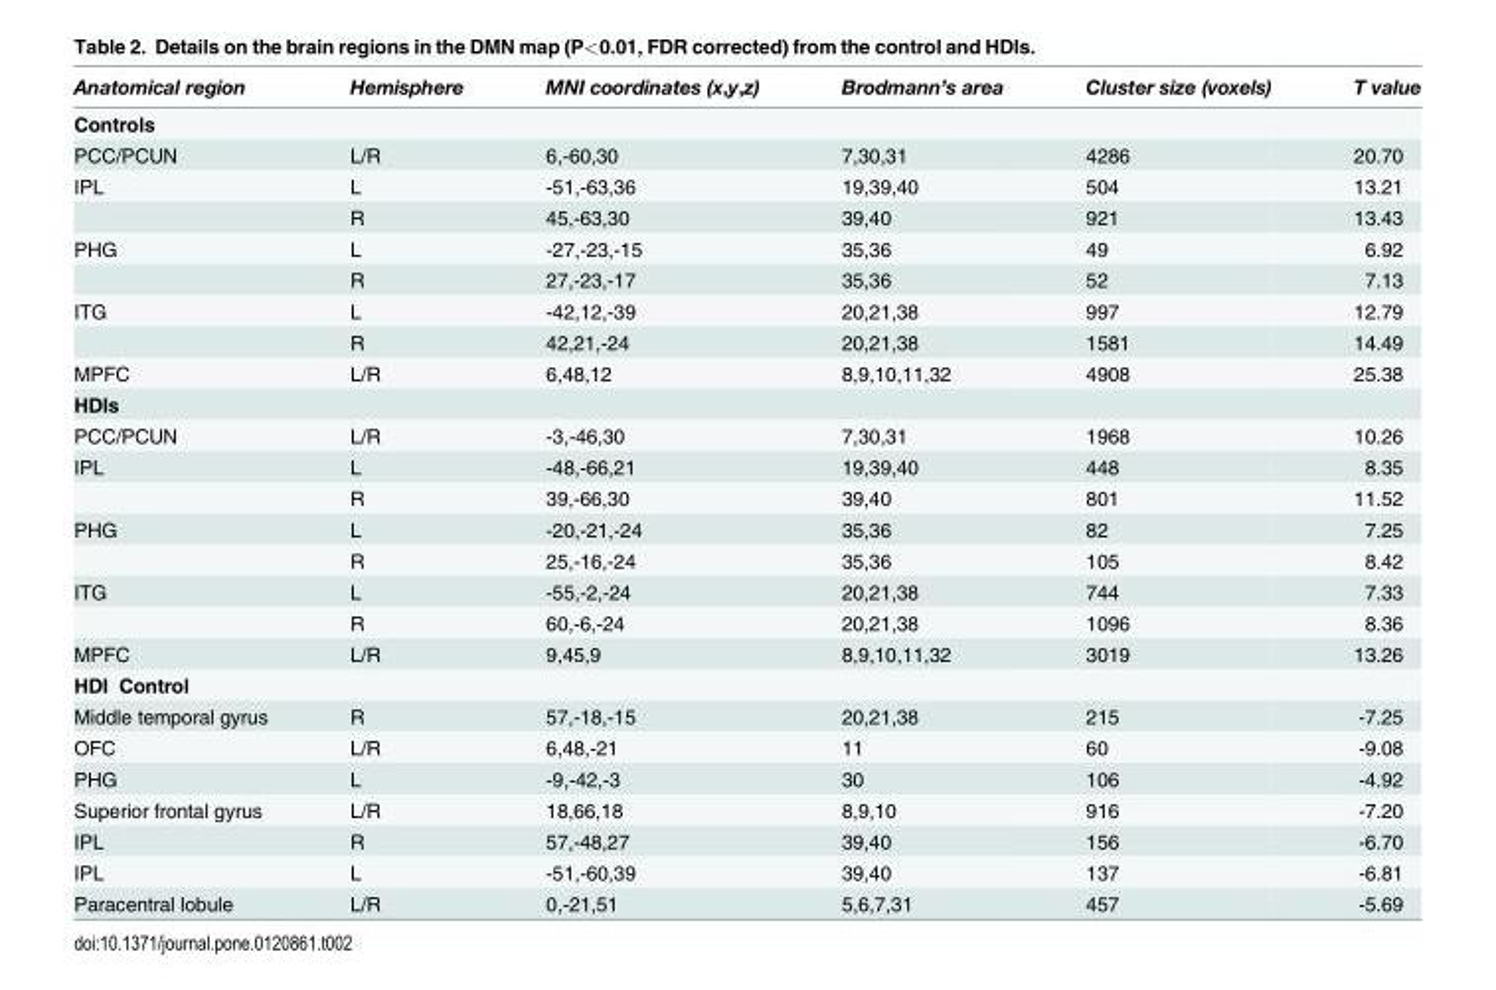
<table><thead><tr><td>Anatomical region</td><td>Hemisphere</td><td>MNI coordinates (x,y,z)</td><td>Brodmann’s area</td><td>Cluster size (voxels)</td><td>T value</td></tr></thead><tbody><tr><td colspan="6">Controls</td></tr><tr><td>PCC/PCUN</td><td>L/R</td><td>6,-60,30</td><td>7,30,31</td><td>4286</td><td>20.70</td></tr><tr><td rowspan="2">IPL</td><td>L</td><td>-51,-63,36</td><td>19,39,40</td><td>504</td><td>13.21</td></tr><tr><td>R</td><td>45,-63,30</td><td>39,40</td><td>921</td><td>13.43</td></tr><tr><td rowspan="2">PHG</td><td>L</td><td>-27,-23,-15</td><td>35,36</td><td>49</td><td>6.92</td></tr><tr><td>R</td><td>27,-23,-17</td><td>35,36</td><td>52</td><td>7.13</td></tr><tr><td rowspan="2">ITG</td><td>L</td><td>-42,12,-39</td><td>20,21,38</td><td>997</td><td>12.79</td></tr><tr><td>R</td><td>42,21,-24</td><td>20,21,38</td><td>1581</td><td>14.49</td></tr><tr><td>MPFC</td><td>L/R</td><td>6,48,12</td><td>8,9,10,11,32</td><td>4908</td><td>25.38</td></tr><tr><td colspan="6">HDIs</td></tr><tr><td>PCC/PCUN</td><td>L/R</td><td>-3,-46,30</td><td>7,30,31</td><td>1968</td><td>10.26</td></tr><tr><td rowspan="2">IPL</td><td>L</td><td>-48,-66,21</td><td>19,39,40</td><td>448</td><td>8.35</td></tr><tr><td>R</td><td>39,-66,30</td><td>39,40</td><td>801</td><td>11.52</td></tr><tr><td rowspan="2">PHG</td><td>L</td><td>-20,-21,-24</td><td>35,36</td><td>82</td><td>7.25</td></tr><tr><td>R</td><td>25,-16,-24</td><td>35,36</td><td>105</td><td>8.42</td></tr><tr><td rowspan="2">ITG</td><td>L</td><td>-55,-2,-24</td><td>20,21,38</td><td>744</td><td>7.33</td></tr><tr><td>R</td><td>60,-6,-24</td><td>20,21,38</td><td>1096</td><td>8.36</td></tr><tr><td>MPFC</td><td>L/R</td><td>9,45,9</td><td>8,9,10,11,32</td><td>3019</td><td>13.26</td></tr><tr><td colspan="6">HDI〈 Control</td></tr><tr><td>Middle temporal gyrus</td><td>R</td><td>57,-18,-15</td><td>20,21,38</td><td>215</td><td>-7.25</td></tr><tr><td>OFC</td><td>L/R</td><td>6,48,-21</td><td>11</td><td>60</td><td>-9.08</td></tr><tr><td>PHG</td><td>L</td><td>-9,-42,-3</td><td>30</td><td>106</td><td>-4.92</td></tr><tr><td>Superior frontal gyrus</td><td>L/R</td><td>18,66,18</td><td>8,9,10</td><td>916</td><td>-7.20</td></tr><tr><td>IPL</td><td>R</td><td>57,-48,27</td><td>39,40</td><td>156</td><td>-6.70</td></tr><tr><td>IPL</td><td>L</td><td>-51,-60,39</td><td>39,40</td><td>137</td><td>-6.81</td></tr><tr><td>Paracentral lobule</td><td>L/R</td><td>0,-21,51</td><td>5,6,7,31</td><td>457</td><td>-5.69</td></tr></tbody></table>